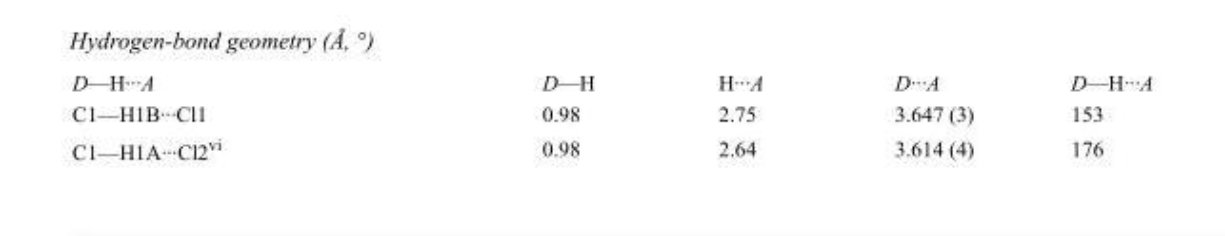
<table><tbody><tr><td>D—H···A</td><td>D—H</td><td>H···A</td><td>D···A</td><td>D—H···A</td></tr><tr><td>C1—H1B···Cl1</td><td>0.98</td><td>2.75</td><td>3.647 (3)</td><td>153</td></tr><tr><td>C1—H1A···Cl2<sup>vi</sup></td><td>0.98</td><td>2.64</td><td>3.614 (4)</td><td>176</td></tr></tbody></table>